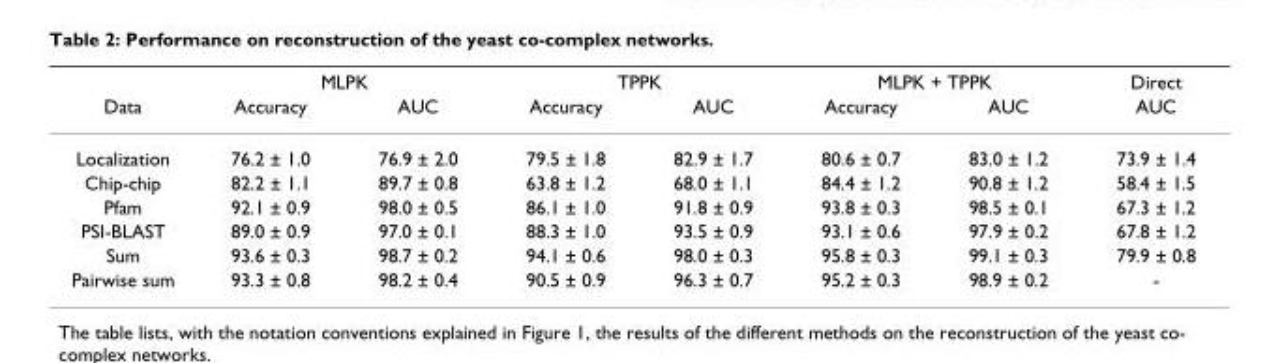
<table><thead><tr><td rowspan="2">Data</td><td colspan="2">MLPK</td><td colspan="2">TPPK</td><td colspan="2">MLPK + TPPK</td><td rowspan="2">Direct AUC</td></tr><tr><td>Accuracy</td><td>AUC</td><td>Accuracy</td><td>AUC</td><td>Accuracy</td><td>AUC</td></tr></thead><tbody><tr><td>Localization</td><td>76.2 ± 1.0</td><td>76.9 ± 2.0</td><td>79.5 ± 1.8</td><td>82.9 ± 1.7</td><td>80.6 ± 0.7</td><td>83.0 ± 1.2</td><td>73.9 ± 1.4</td></tr><tr><td>Chip-chip</td><td>82.2 ± 1.1</td><td>89.7 ± 0.8</td><td>63.8 ± 1.2</td><td>68.0 ± 1.1</td><td>84.4 ± 1.2</td><td>90.8 ± 1.2</td><td>58.4 ± 1.5</td></tr><tr><td>Pfam</td><td>92.1 ± 0.9</td><td>98.0 ± 0.5</td><td>86.1 ± 1.0</td><td>91.8 ± 0.9</td><td>93.8 ± 0.3</td><td>98.5 ± 0.1</td><td>67.3 ± 1.2</td></tr><tr><td>PSI-BLAST</td><td>89.0 ± 0.9</td><td>97.0 ± 0.1</td><td>88.3 ± 1.0</td><td>93.5 ± 0.9</td><td>93.1 ± 0.6</td><td>97.9 ± 0.2</td><td>67.8 ± 1.2</td></tr><tr><td>Sum</td><td>93.6 ± 0.3</td><td>98.7 ± 0.2</td><td>94.1 ± 0.6</td><td>98.0 ± 0.3</td><td>95.8 ± 0.3</td><td>99.1 ± 0.3</td><td>79.9 ± 0.8</td></tr><tr><td>Pairwise sum</td><td>93.3 ± 0.8</td><td>98.2 ± 0.4</td><td>90.5 ± 0.9</td><td>96.3 ± 0.7</td><td>95.2 ± 0.3</td><td>98.9 ± 0.2</td><td>-</td></tr></tbody></table>